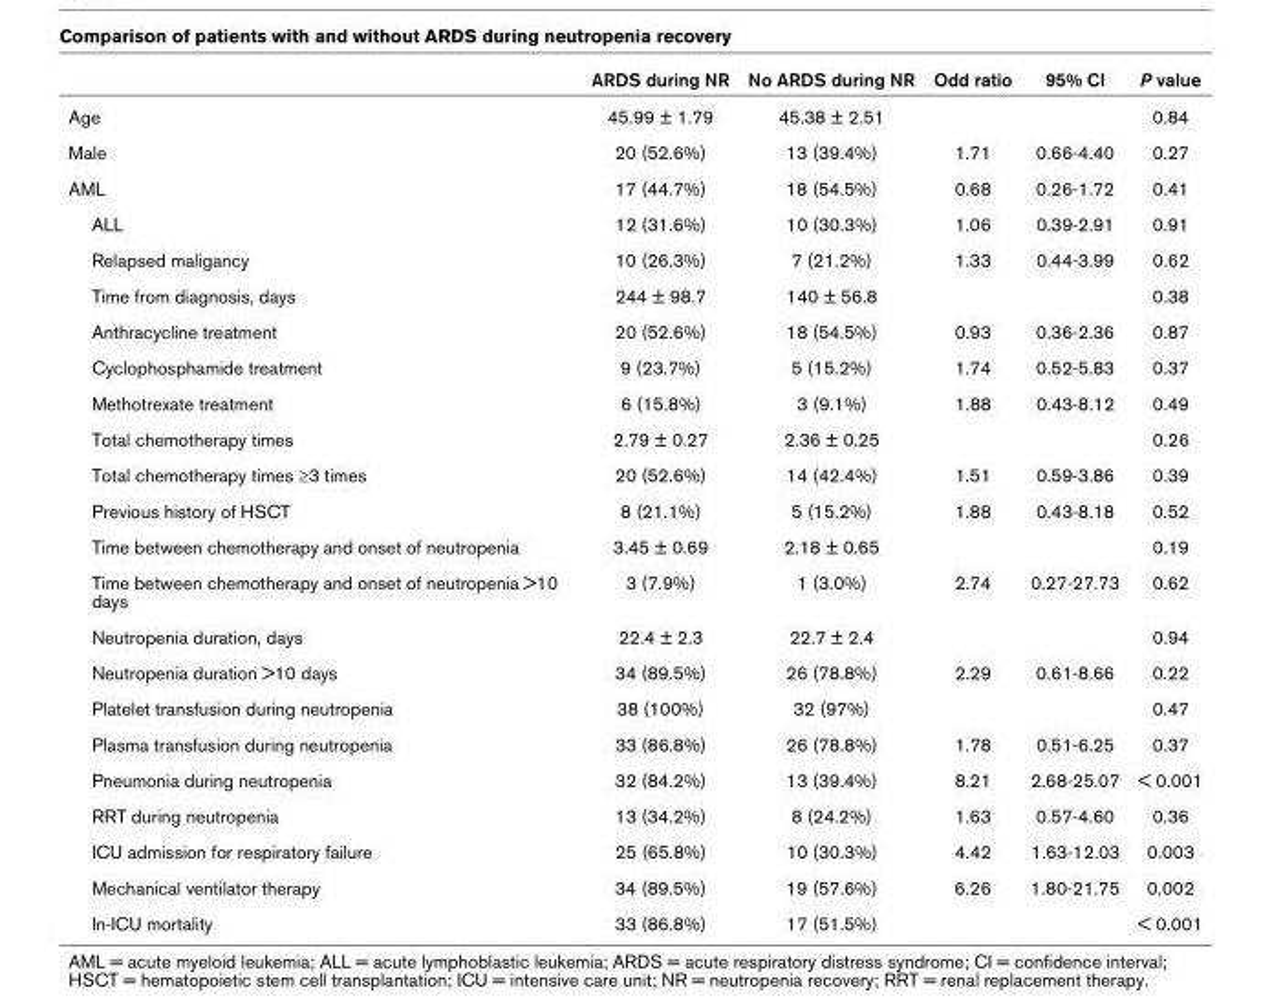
<table><thead><tr><td></td><td>ARDS during NR</td><td>No ARDS during NR</td><td>Odd ratio</td><td>95% CI</td><td>P value</td></tr></thead><tbody><tr><td>Age</td><td>45.99 ± 1.79</td><td>45.38 ± 2.51</td><td></td><td></td><td>0.84</td></tr><tr><td>Male</td><td>20 (52.6%)</td><td>13 (39.4%)</td><td>1.71</td><td>0.66-4.40</td><td>0.27</td></tr><tr><td>AML</td><td>17 (44.7%)</td><td>18 (54.5%)</td><td>0.68</td><td>0.26-1.72</td><td>0.41</td></tr><tr><td>ALL</td><td>12 (31.6%)</td><td>10 (30.3%)</td><td>1.06</td><td>0.39-2.91</td><td>0.91</td></tr><tr><td>Relapsed maligancy</td><td>10 (26.3%)</td><td>7 (21.2%)</td><td>1.33</td><td>0.44-3.99</td><td>0.62</td></tr><tr><td>Time from diagnosis, days</td><td>244 ± 98.7</td><td>140 ± 56.8</td><td></td><td></td><td>0.38</td></tr><tr><td>Anthracycline treatment</td><td>20 (52.6%)</td><td>18 (54.5%)</td><td>0.93</td><td>0.36-2.36</td><td>0.87</td></tr><tr><td>Cyclophosphamide treatment</td><td>9 (23.7%)</td><td>5 (15.2%)</td><td>1.74</td><td>0.52-5.83</td><td>0.37</td></tr><tr><td>Methotrexate treatment</td><td>6 (15.8%)</td><td>3 (9.1%)</td><td>1.88</td><td>0.43-8.12</td><td>0.49</td></tr><tr><td>Total chemotherapy times</td><td>2.79 ± 0.27</td><td>2.36 ± 0.25</td><td></td><td></td><td>0.26</td></tr><tr><td>Total chemotherapy times ≥3 times</td><td>20 (52.6%)</td><td>14 (42.4%)</td><td>1.51</td><td>0.59-3.86</td><td>0.39</td></tr><tr><td>Previous history of HSCT</td><td>8 (21.1%)</td><td>5 (15.2%)</td><td>1.88</td><td>0.43-8.18</td><td>0.52</td></tr><tr><td>Time between chemotherapy and onset of neutropenia</td><td>3.45 ± 0.69</td><td>2.18 ± 0.65</td><td></td><td></td><td>0.19</td></tr><tr><td>Time between chemotherapy and onset of neutropenia &gt;10 days</td><td>3 (7.9%)</td><td>1 (3.0%)</td><td>2.74</td><td>0.27-27.73</td><td>0.62</td></tr><tr><td>Neutropenia duration, days</td><td>22.4 ± 2.3</td><td>22.7 ± 2.4</td><td></td><td></td><td>0.94</td></tr><tr><td>Neutropenia duration &gt;10 days</td><td>34 (89.5%)</td><td>26 (78.8%)</td><td>2.29</td><td>0.61-8.66</td><td>0.22</td></tr><tr><td>Platelet transfusion during neutropenia</td><td>38 (100%)</td><td>32 (97%)</td><td></td><td></td><td>0.47</td></tr><tr><td>Plasma transfusion during neutropenia</td><td>33 (86.8%)</td><td>26 (78.8%)</td><td>1.78</td><td>0.51-6.25</td><td>0.37</td></tr><tr><td>Pneumonia during neutropenia</td><td>32 (84.2%)</td><td>13 (39.4%)</td><td>8.21</td><td>2.68-25.07</td><td>&lt; 0.001</td></tr><tr><td>RRT during neutropenia</td><td>13 (34.2%)</td><td>8 (24.2%)</td><td>1.63</td><td>0.57-4.60</td><td>0.36</td></tr><tr><td>ICU admission for respiratory failure</td><td>25 (65.8%)</td><td>10 (30.3%)</td><td>4.42</td><td>1.63-12.03</td><td>0.003</td></tr><tr><td>Mechanical ventilator therapy</td><td>34 (89.5%)</td><td>19 (57.6%)</td><td>6.26</td><td>1.80-21.75</td><td>0.002</td></tr><tr><td>In-ICU mortality</td><td>33 (86.8%)</td><td>17 (51.5%)</td><td></td><td></td><td>&lt; 0.001</td></tr></tbody></table>